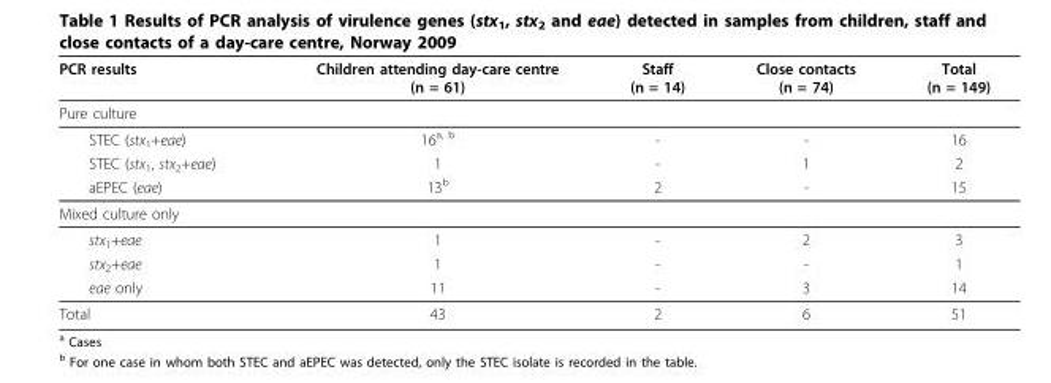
<table><thead><tr><td>PCR results</td><td>Children attending day-care centre (n = 61)</td><td>Staff (n = 14)</td><td>Close contacts (n = 74)</td><td>Total (n = 149)</td></tr></thead><tbody><tr><td colspan="5">Pure culture</td></tr><tr><td>STEC (stx1+eae)</td><td>16a, b</td><td>-</td><td>-</td><td>16</td></tr><tr><td>STEC (stx1, stx2+eae)</td><td>1</td><td>-</td><td>1</td><td>2</td></tr><tr><td>aEPEC (eae)</td><td>13b</td><td>2</td><td>-</td><td>15</td></tr><tr><td colspan="5">Mixed culture only</td></tr><tr><td>stx1+eae</td><td>1</td><td>-</td><td>2</td><td>3</td></tr><tr><td>stx2+eae</td><td>1</td><td>-</td><td>-</td><td>1</td></tr><tr><td>eae only</td><td>11</td><td>-</td><td>3</td><td>14</td></tr><tr><td>Total</td><td>43</td><td>2</td><td>6</td><td>51</td></tr></tbody></table>